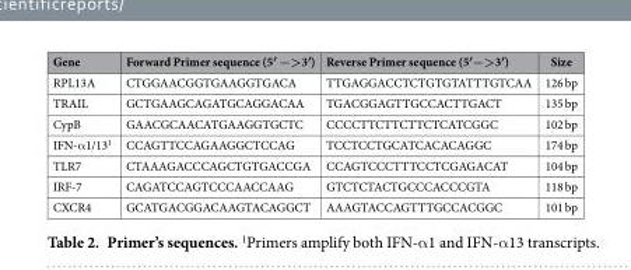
<table><thead><tr><td>Gene</td><td>Forward Primer sequence (5′ −&gt;3′)</td><td>Reverse Primer sequence (5′−&gt;3′)</td><td>Size</td></tr></thead><tbody><tr><td>RPL13A</td><td>CTGGAACGGTGAAGGTGACA</td><td>TTGAGGACCTCTGTGTATTTGTCAA</td><td>126 bp</td></tr><tr><td>TRAIL</td><td>GCTGAAGCAGATGCAGGACAA</td><td>TGACGGAGTTGCCACTTGACT</td><td>135 bp</td></tr><tr><td>CypB</td><td>GAACGCAACATGAAGGTGCTC</td><td>CCCCTTCTTCTTCTCATCGGC</td><td>102 bp</td></tr><tr><td>IFN-α 1/13<sup>1</sup></td><td>CCAGTTCCAGAAGGCTCCAG</td><td>TCCTCCTGCATCACACAGGC</td><td>174 bp</td></tr><tr><td>TLR7</td><td>CTAAAGACCCAGCTGTGACCGA</td><td>CCAGTCCCTTTCCTCGAGACAT</td><td>104 bp</td></tr><tr><td>IRF-7</td><td>CAGATCCAGTCCCAACCAAG</td><td>GTCTCTACTGCCCACCCGTA</td><td>118 bp</td></tr><tr><td>CXCR4</td><td>GCATGACGGACAAGTACAGGCT</td><td>AAAGTACCAGTTTGCCACGGC</td><td>101 bp</td></tr></tbody></table>